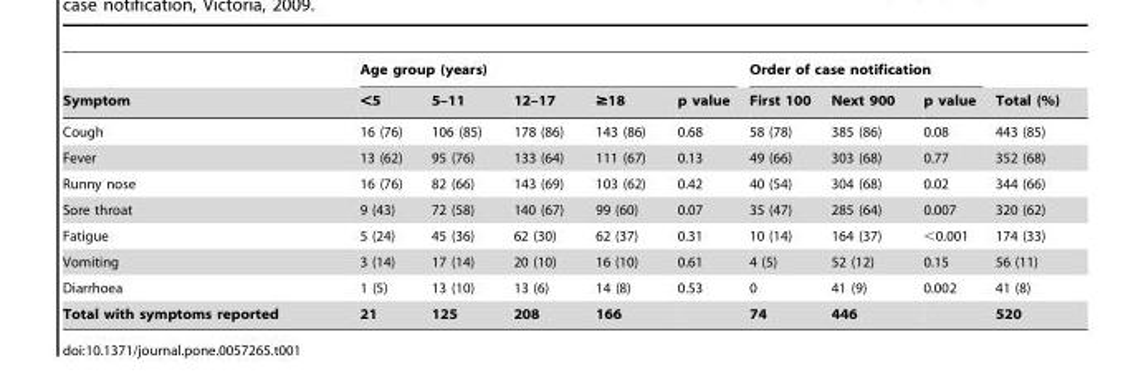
<table><thead><tr><td rowspan="2">Symptom</td><td colspan="5">Age group (years)</td><td colspan="3">Order of case notification</td><td rowspan="2">Total (%)</td></tr><tr><td>&lt;5</td><td>5–11</td><td>12–17</td><td>≥18</td><td>p value</td><td>First 100</td><td>Next 900</td><td>p value</td></tr></thead><tbody><tr><td>Cough</td><td>16 (76)</td><td>106 (85)</td><td>178 (86)</td><td>143 (86)</td><td>0.68</td><td>58 (78)</td><td>385 (86)</td><td>0.08</td><td>443 (85)</td></tr><tr><td>Fever</td><td>13 (62)</td><td>95 (76)</td><td>133 (64)</td><td>111 (67)</td><td>0.13</td><td>49 (66)</td><td>303 (68)</td><td>0.77</td><td>352 (68)</td></tr><tr><td>Runny nose</td><td>16 (76)</td><td>82 (66)</td><td>143 (69)</td><td>103 (62)</td><td>0.42</td><td>40 (54)</td><td>304 (68)</td><td>0.02</td><td>344 (66)</td></tr><tr><td>Sore throat</td><td>9 (43)</td><td>72 (58)</td><td>140 (67)</td><td>99 (60)</td><td>0.07</td><td>35 (47)</td><td>285 (64)</td><td>0.007</td><td>320 (62)</td></tr><tr><td>Fatigue</td><td>5 (24)</td><td>45 (36)</td><td>62 (30)</td><td>62 (37)</td><td>0.31</td><td>10 (14)</td><td>164 (37)</td><td>&lt;0.001</td><td>174 (33)</td></tr><tr><td>Vomiting</td><td>3 (14)</td><td>17 (14)</td><td>20 (10)</td><td>16 (10)</td><td>0.61</td><td>4 (5)</td><td>52 (12)</td><td>0.15</td><td>56 (11)</td></tr><tr><td>Diarrhoea</td><td>1 (5)</td><td>13 (10)</td><td>13 (6)</td><td>14 (8)</td><td>0.53</td><td>0</td><td>41 (9)</td><td>0.002</td><td>41 (8)</td></tr><tr><td>Total with symptoms reported</td><td>21</td><td>125</td><td>208</td><td>166</td><td></td><td>74</td><td>446</td><td></td><td>520</td></tr></tbody></table>